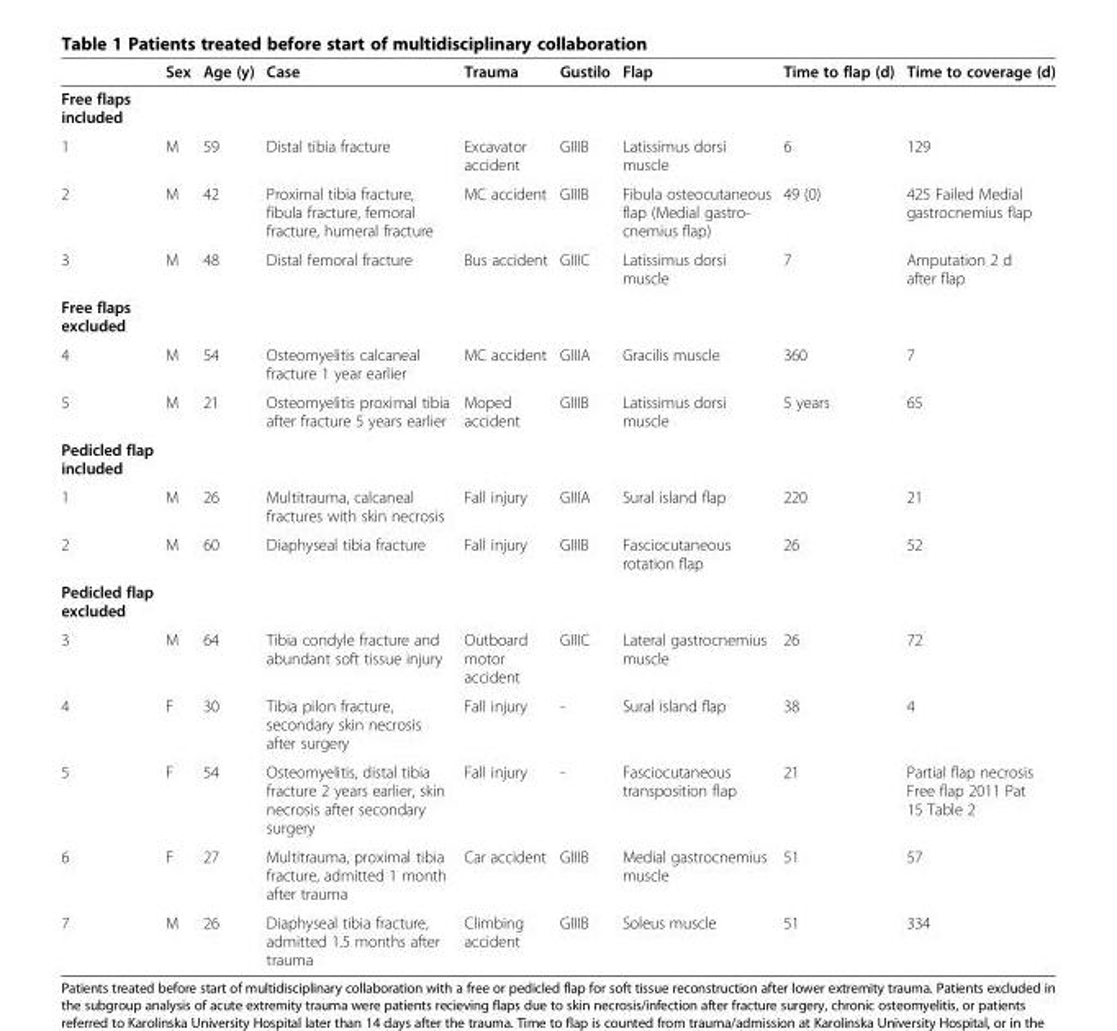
<table><thead><tr><td></td><td>Sex</td><td>Age (y)</td><td>Case</td><td>Trauma</td><td>Gustilo</td><td>Flap</td><td>Time to flap (d)</td><td>Time to coverage (d)</td></tr></thead><tbody><tr><td colspan="9">Free flaps included</td></tr><tr><td>1</td><td>M</td><td>59</td><td>Distal tibia fracture</td><td>Excavator accident</td><td>GIIIB</td><td>Latissimus dorsi muscle</td><td>6</td><td>129</td></tr><tr><td>2</td><td>M</td><td>42</td><td>Proximal tibia fracture, fibula fracture, femoral fracture, humeral fracture</td><td>MC accident</td><td>GIIIB</td><td>Fibula osteocutaneous flap (Medial gastro- cnemius flap)</td><td>49 (0)</td><td>425 Failed Medial gastrocnemius flap</td></tr><tr><td>3</td><td>M</td><td>48</td><td>Distal femoral fracture</td><td>Bus accident</td><td>GIIIC</td><td>Latissimus dorsi muscle</td><td>7</td><td>Amputation 2 d after flap</td></tr><tr><td colspan="9">Free flaps excluded</td></tr><tr><td>4</td><td>M</td><td>54</td><td>Osteomyelitis calcaneal fracture 1 year earlier</td><td>MC accident</td><td>GIIIA</td><td>Gracilis muscle</td><td>360</td><td>7</td></tr><tr><td>5</td><td>M</td><td>21</td><td>Osteomyelitis proximal tibia after fracture 5 years earlier</td><td>Moped accident</td><td>GIIIB</td><td>Latissimus dorsi muscle</td><td>5 years</td><td>65</td></tr><tr><td colspan="9">Pedicled flap included</td></tr><tr><td>1</td><td>M</td><td>26</td><td>Multitrauma, calcaneal fractures with skin necrosis</td><td>Fall injury</td><td>GIIIA</td><td>Sural island flap</td><td>220</td><td>21</td></tr><tr><td>2</td><td>M</td><td>60</td><td>Diaphyseal tibia fracture</td><td>Fall injury</td><td>GIIIB</td><td>Fasciocutaneous rotation flap</td><td>26</td><td>52</td></tr><tr><td colspan="9">Pedicled flap excluded</td></tr><tr><td>3</td><td>M</td><td>64</td><td>Tibia condyle fracture and abundant soft tissue injury</td><td>Outboard motor accident</td><td>GIIIC</td><td>Lateral gastrocnemius muscle</td><td>26</td><td>72</td></tr><tr><td>4</td><td>F</td><td>30</td><td>Tibia pilon fracture, secondary skin necrosis after surgery</td><td>Fall injury</td><td>-</td><td>Sural island flap</td><td>38</td><td>4</td></tr><tr><td>5</td><td>F</td><td>54</td><td>Osteomyelitis, distal tibia fracture 2 years earlier, skin necrosis after secondary surgery</td><td>Fall injury</td><td>-</td><td>Fasciocutaneous transposition flap</td><td>21</td><td>Partial flap necrosis Free flap 2011 Pat 15 Table 2</td></tr><tr><td>6</td><td>F</td><td>27</td><td>Multitrauma, proximal tibia fracture, admitted 1 month after trauma</td><td>Car accident</td><td>GIIIB</td><td>Medial gastrocnemius muscle</td><td>51</td><td>57</td></tr><tr><td>7</td><td>M</td><td>26</td><td>Diaphyseal tibia fracture, admitted 1.5 months after trauma</td><td>Climbing accident</td><td>GIIIB</td><td>Soleus muscle</td><td>51</td><td>334</td></tr></tbody></table>